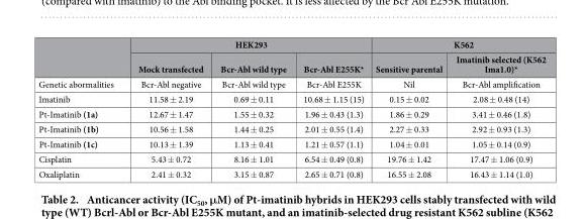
<table><thead><tr><td rowspan="2"></td><td colspan="3">HEK293</td><td colspan="2">K562</td></tr><tr><td>Mock transfected</td><td>Bcr-Abl wild type</td><td>Bcr-Abl E255K*</td><td>Sensitive parental</td><td>Imatinib selected (K562 Ima1.0)*</td></tr></thead><tbody><tr><td>Genetic abormalities</td><td>Bcr-Abl negative</td><td>Bcr-Abl wild type</td><td>Bcr-Abl E255K</td><td>Nil</td><td>Bcr-Abl amplification</td></tr><tr><td>Imatinib</td><td>11.58 ± 2.19</td><td>0.69 ± 0.11</td><td>10.68 ± 1.15 (15)</td><td>0.15 ± 0.02</td><td>2.08 ± 0.48 (14)</td></tr><tr><td>Pt-Imatinib (1a)</td><td>12.67 ± 1.47</td><td>1.55 ± 0.32</td><td>1.96 ± 0.43 (1.3)</td><td>1.86 ± 0.29</td><td>3.41 ± 0.46 (1.8)</td></tr><tr><td>Pt-Imatinib (1b)</td><td>10.56 ± 1.58</td><td>1.44 ± 0.25</td><td>2.01 ± 0.55 (1.4)</td><td>2.27 ± 0.33</td><td>2.92 ± 0.93 (1.3)</td></tr><tr><td>Pt-Imatinib (1c)</td><td>10.13 ± 1.39</td><td>1.13 ± 0.41</td><td>1.21 ± 0.57 (1.1)</td><td>1.04 ± 0.01</td><td>1.05 ± 0.14 (0.9)</td></tr><tr><td>Cisplatin</td><td>5.43 ± 0.72</td><td>8.16 ± 1.01</td><td>6.54 ± 0.49 (0.8)</td><td>19.76 ± 1.42</td><td>17.47 ± 1.06 (0.9)</td></tr><tr><td>Oxaliplatin</td><td>2.41 ± 0.32</td><td>3.15 ± 0.87</td><td>2.65 ± 0.71 (0.8)</td><td>16.55 ± 2.08</td><td>16.43 ± 1.14 (1.0)</td></tr></tbody></table>